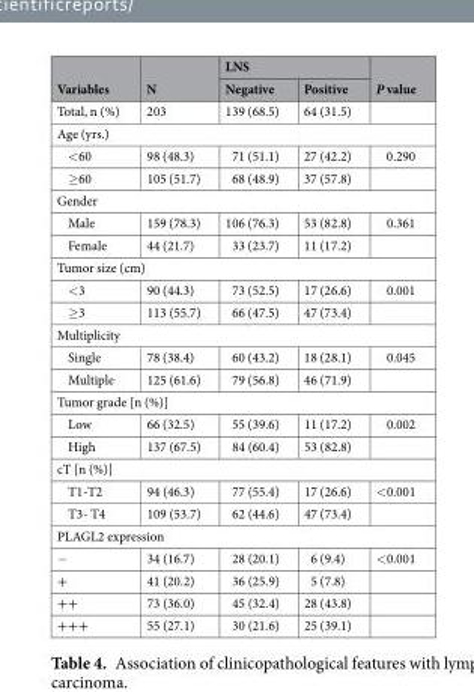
<table><thead><tr><td rowspan="2">Variables</td><td rowspan="2">N</td><td colspan="2">LNS</td><td rowspan="2">P value</td></tr><tr><td>Negative</td><td>Positive</td></tr></thead><tbody><tr><td>Total, n (%)</td><td>203</td><td>139 (68.5)</td><td>64 (31.5)</td><td></td></tr><tr><td colspan="5">Age (yrs.)</td></tr><tr><td>&lt;60</td><td>98 (48.3)</td><td>71 (51.1)</td><td>27 (42.2)</td><td>0.290</td></tr><tr><td>≥60</td><td>105 (51.7)</td><td>68 (48.9)</td><td>37 (57.8)</td><td></td></tr><tr><td colspan="5">Gender</td></tr><tr><td>Male</td><td>159 (78.3)</td><td>106 (76.3)</td><td>53 (82.8)</td><td>0.361</td></tr><tr><td>Female</td><td>44 (21.7)</td><td>33 (23.7)</td><td>11 (17.2)</td><td></td></tr><tr><td colspan="5">Tumor size (cm)</td></tr><tr><td>&lt;3</td><td>90 (44.3)</td><td>73 (52.5)</td><td>17 (26.6)</td><td>0.001</td></tr><tr><td>≥3</td><td>113 (55.7)</td><td>66 (47.5)</td><td>47 (73.4)</td><td></td></tr><tr><td colspan="5">Multiplicity</td></tr><tr><td>Single</td><td>78 (38.4)</td><td>60 (43.2)</td><td>18 (28.1)</td><td>0.045</td></tr><tr><td>Multiple</td><td>125 (61.6)</td><td>79 (56.8)</td><td>46 (71.9)</td><td></td></tr><tr><td colspan="5">Tumor grade [n (%)]</td></tr><tr><td>Low</td><td>66 (32.5)</td><td>55 (39.6)</td><td>11 (17.2)</td><td>0.002</td></tr><tr><td>High</td><td>137 (67.5)</td><td>84 (60.4)</td><td>53 (82.8)</td><td></td></tr><tr><td colspan="5">cT [n (%)]</td></tr><tr><td>T1-T2</td><td>94 (46.3)</td><td>77 (55.4)</td><td>17 (26.6)</td><td>&lt;0.001</td></tr><tr><td>T3- T4</td><td>109 (53.7)</td><td>62 (44.6)</td><td>47 (73.4)</td><td></td></tr><tr><td colspan="5">PLAGL2 expression</td></tr><tr><td>−</td><td>34 (16.7)</td><td>28 (20.1)</td><td>6 (9.4)</td><td>&lt;0.001</td></tr><tr><td>+</td><td>41 (20.2)</td><td>36 (25.9)</td><td>5 (7.8)</td><td></td></tr><tr><td>++</td><td>73 (36.0)</td><td>45 (32.4)</td><td>28 (43.8)</td><td></td></tr><tr><td>+++</td><td>55 (27.1)</td><td>30 (21.6)</td><td>25 (39.1)</td><td></td></tr></tbody></table>